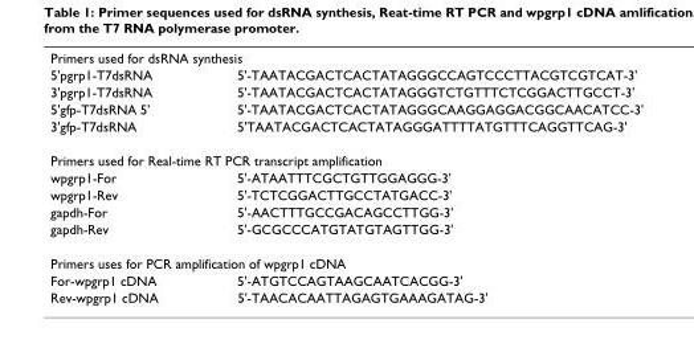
<table><tbody><tr><td colspan="2">Primers used for dsRNA synthesis</td></tr><tr><td>5&#x27;pgrp1-T7dsRNA</td><td>5&#x27;-TAATACGACTCACTATAGGGCCAGTCCCTTACGTCGTCAT-3&#x27;</td></tr><tr><td>3&#x27;pgrp1-T7dsRNA</td><td>5&#x27;-TAATACGACTCACTATAGGGTCTGTTTCTCGGACTTGCCT-3&#x27;</td></tr><tr><td>5&#x27;gfp-T7dsRNA 5&#x27;</td><td>5&#x27;-TAATACGACTCACTATAGGGCAAGGAGGACGGCAACATCC-3&#x27;</td></tr><tr><td>3&#x27;gfp-T7dsRNA</td><td>5&#x27;TAATACGACTCACTATAGGGATTTTATGTTTCAGGTTCAG-3&#x27;</td></tr><tr><td colspan="2">Primers used for Real-time RT PCR transcript amplification</td></tr><tr><td>wpgrp1-For</td><td>5&#x27;-ATAATTTCGCTGTTGGAGGG-3&#x27;</td></tr><tr><td>wpgrp1-Rev</td><td>5&#x27;-TCTCGGACTTGCCTATGACC-3&#x27;</td></tr><tr><td>gapdh-For</td><td>5&#x27;-AACTTTGCCGACAGCCTTGG-3&#x27;</td></tr><tr><td>gapdh-Rev</td><td>5&#x27;-GCGCCCATGTATGTAGTTGG-3&#x27;</td></tr><tr><td colspan="2">Primers uses for PCR amplification of wpgrp1 cDNA</td></tr><tr><td>For-wpgrp1 cDNA</td><td>5&#x27;-ATGTCCAGTAAGCAATCACGG-3&#x27;</td></tr><tr><td>Rev-wpgrp1 cDNA</td><td>5&#x27;-TAACACAATTAGAGTGAAAGATAG-3&#x27;</td></tr></tbody></table>